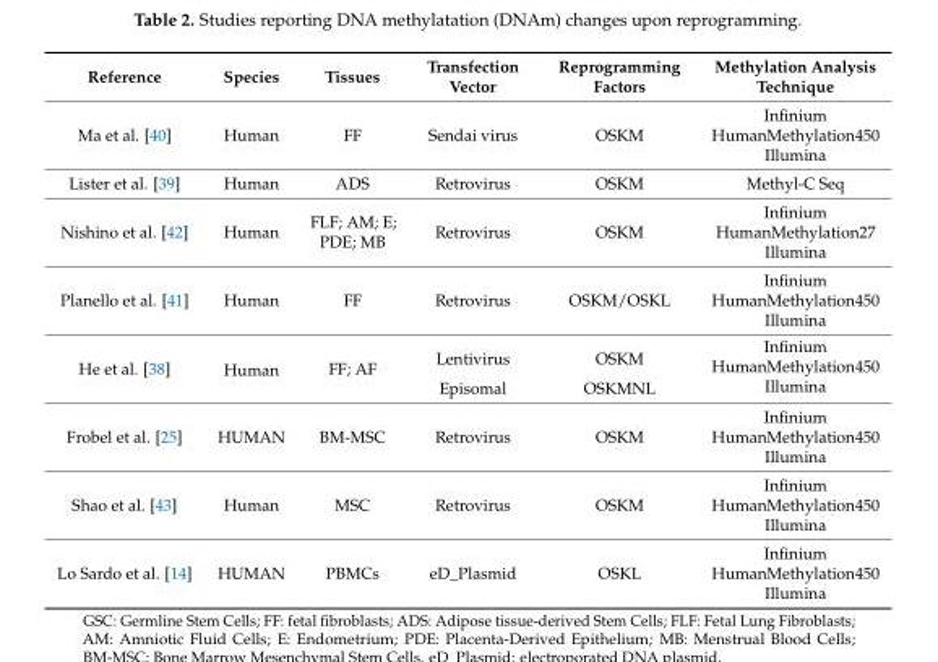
<table><thead><tr><td>Reference</td><td>Species</td><td>Tissues</td><td>Transfection Vector</td><td>Reprogramming Factors</td><td>Methylation Analysis Technique</td></tr></thead><tbody><tr><td>Ma et al. [40]</td><td>Human</td><td>FF</td><td>Sendai virus</td><td>OSKM</td><td>Infinium HumanMethylation450 Illumina</td></tr><tr><td>Lister et al. [39]</td><td>Human</td><td>ADS</td><td>Retrovirus</td><td>OSKM</td><td>Methyl-C Seq</td></tr><tr><td>Nishino et al. [42]</td><td>Human</td><td>FLF; AM; E; PDE; MB</td><td>Retrovirus</td><td>OSKM</td><td>Infinium HumanMethylation27 Illumina</td></tr><tr><td>Planello et al. [41]</td><td>Human</td><td>FF</td><td>Retrovirus</td><td>OSKM/OSKL</td><td>Infinium HumanMethylation450 Illumina</td></tr><tr><td rowspan="2">He et al. [38]</td><td rowspan="2">Human</td><td rowspan="2">FF; AF</td><td>Lentivirus</td><td>OSKM</td><td rowspan="2">Infinium HumanMethylation450 Illumina</td></tr><tr><td>Episomal</td><td>OSKMNL</td></tr><tr><td>Frobel et al. [25]</td><td>HUMAN</td><td>BM-MSC</td><td>Retrovirus</td><td>OSKM</td><td>Infinium HumanMethylation450 Illumina</td></tr><tr><td>Shao et al. [43]</td><td>Human</td><td>MSC</td><td>Retrovirus</td><td>OSKM</td><td>Infinium HumanMethylation450 Illumina</td></tr><tr><td>Lo Sardo et al. [14]</td><td>HUMAN</td><td>PBMCs</td><td>eD_Plasmid</td><td>OSKL</td><td>Infinium HumanMethylation450 Illumina</td></tr></tbody></table>